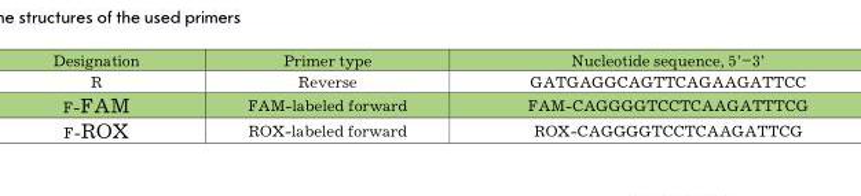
<table><thead><tr><td>Designation</td><td>Primer type</td><td>Nucleotide sequence, 5’–3’</td></tr></thead><tbody><tr><td>R</td><td>Reverse</td><td>GATGAGGCAGTTCAGAAGATTCC</td></tr><tr><td>F-FAM</td><td>FAM-labeled forward</td><td>FAM-CAGGGGTCCTCAAGATTTCG</td></tr><tr><td>F-ROX</td><td>ROX-labeled forward</td><td>ROX-CAGGGGTCCTCAAGATTCG</td></tr></tbody></table>